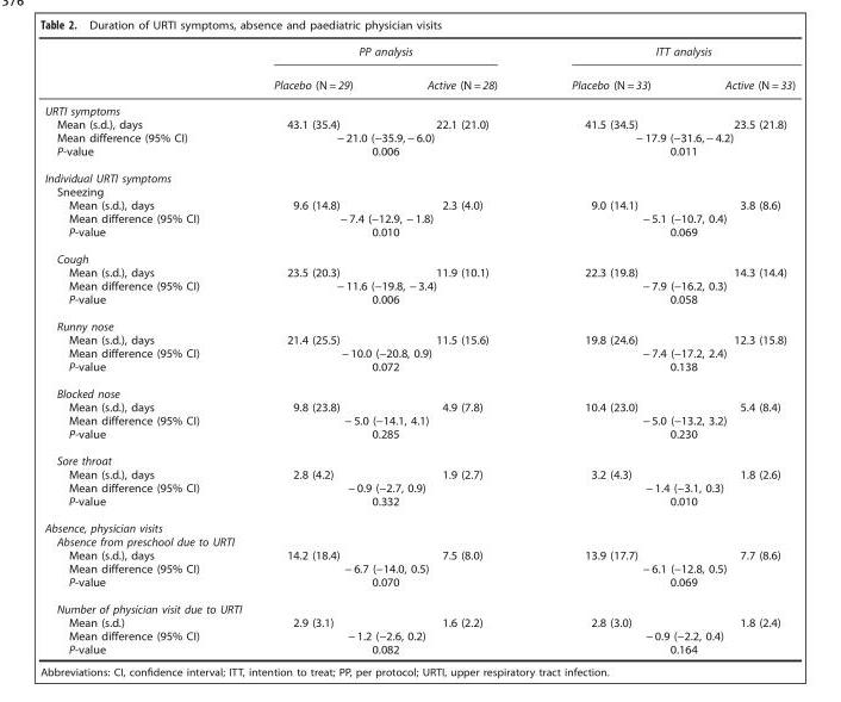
<table><thead><tr><td rowspan="2"></td><td colspan="2">PP analysis</td><td colspan="2">ITT analysis</td></tr><tr><td>Placebo (N = 29)</td><td>Active (N = 28)</td><td>Placebo (N = 33)</td><td>Active (N = 33)</td></tr></thead><tbody><tr><td colspan="5">URTI symptoms</td></tr><tr><td>Mean (s.d.), days</td><td>43.1 (35.4)</td><td>22.1 (21.0)</td><td>41.5 (34.5)</td><td>23.5 (21.8)</td></tr><tr><td>Mean difference (95% CI)</td><td colspan="2">− 21.0 (−35.9, − 6.0)</td><td colspan="2">− 17.9 (−31.6, − 4.2)</td></tr><tr><td>P-value</td><td colspan="2">0.006</td><td colspan="2">0.011</td></tr><tr><td colspan="5">Individual URTI symptoms</td></tr><tr><td colspan="5">Sneezing</td></tr><tr><td>Mean (s.d.), days</td><td>9.6 (14.8)</td><td>2.3 (4.0)</td><td>9.0 (14.1)</td><td>3.8 (8.6)</td></tr><tr><td>Mean difference (95% CI)</td><td colspan="2">− 7.4 (−12.9, − 1.8)</td><td colspan="2">− 5.1 (−10.7, 0.4)</td></tr><tr><td>P-value</td><td colspan="2">0.010</td><td colspan="2">0.069</td></tr><tr><td colspan="5">Cough</td></tr><tr><td>Mean (s.d.), days</td><td>23.5 (20.3)</td><td>11.9 (10.1)</td><td>22.3 (19.8)</td><td>14.3 (14.4)</td></tr><tr><td>Mean difference (95% CI)</td><td colspan="2">− 11.6 (−19.8, − 3.4)</td><td colspan="2">− 7.9 (−16.2, 0.3)</td></tr><tr><td>P-value</td><td colspan="2">0.006</td><td colspan="2">0.058</td></tr><tr><td colspan="5">Runny nose</td></tr><tr><td>Mean (s.d.), days</td><td>21.4 (25.5)</td><td>11.5 (15.6)</td><td>19.8 (24.6)</td><td>12.3 (15.8)</td></tr><tr><td>Mean difference (95% CI)</td><td colspan="2">− 10.0 (−20.8, 0.9)</td><td colspan="2">− 7.4 (−17.2, 2.4)</td></tr><tr><td>P-value</td><td colspan="2">0.072</td><td colspan="2">0.138</td></tr><tr><td colspan="5">Blocked nose</td></tr><tr><td>Mean (s.d.), days</td><td>9.8 (23.8)</td><td>4.9 (7.8)</td><td>10.4 (23.0)</td><td>5.4 (8.4)</td></tr><tr><td>Mean difference (95% CI)</td><td colspan="2">− 5.0 (−14.1, 4.1)</td><td colspan="2">− 5.0 (−13.2, 3.2)</td></tr><tr><td>P-value</td><td colspan="2">0.285</td><td colspan="2">0.230</td></tr><tr><td colspan="5">Sore throat</td></tr><tr><td>Mean (s.d.), days</td><td>2.8 (4.2)</td><td>1.9 (2.7)</td><td>3.2 (4.3)</td><td>1.8 (2.6)</td></tr><tr><td>Mean difference (95% CI)</td><td colspan="2">− 0.9 (−2.7, 0.9)</td><td colspan="2">− 1.4 (−3.1, 0.3)</td></tr><tr><td>P-value</td><td colspan="2">0.332</td><td colspan="2">0.010</td></tr><tr><td colspan="5">Absence, physician visits</td></tr><tr><td colspan="5">Absence from preschool due to URTI</td></tr><tr><td>Mean (s.d.), days</td><td>14.2 (18.4)</td><td>7.5 (8.0)</td><td>13.9 (17.7)</td><td>7.7 (8.6)</td></tr><tr><td>Mean difference (95% CI)</td><td colspan="2">− 6.7 (−14.0, 0.5)</td><td colspan="2">− 6.1 (−12.8, 0.5)</td></tr><tr><td>P-value</td><td colspan="2">0.070</td><td colspan="2">0.069</td></tr><tr><td colspan="5">Number of physician visit due to URTI</td></tr><tr><td>Mean (s.d.)</td><td>2.9 (3.1)</td><td>1.6 (2.2)</td><td>2.8 (3.0)</td><td>1.8 (2.4)</td></tr><tr><td>Mean difference (95% CI)</td><td colspan="2">− 1.2 (−2.6, 0.2)</td><td colspan="2">− 0.9 (−2.2, 0.4)</td></tr><tr><td>P-value</td><td colspan="2">0.082</td><td colspan="2">0.164</td></tr></tbody></table>